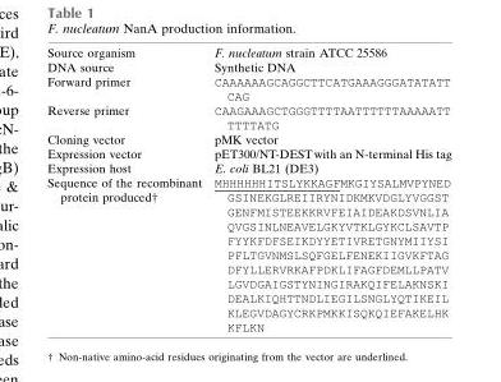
<table><tbody><tr><td>Source organism</td><td>F. nucleatum strain ATCC 25586</td></tr><tr><td>DNA source</td><td>Synthetic DNA</td></tr><tr><td>Forward primer</td><td>CAAAAAAGCAGGCTTCATGAAAGGGATATATT CAG</td></tr><tr><td>Reverse primer</td><td>CAAGAAAGCTGGGTTTTAATTTTTTAAAAATT TTTTATG</td></tr><tr><td>Cloning vector</td><td>pMK vector</td></tr><tr><td>Expression vector</td><td>pET300/NT-DESTwith an N-terminal His tag</td></tr><tr><td>Expression host</td><td>E. coli BL21 (DE3)</td></tr><tr><td>Sequence of the recombinant protein produced†</td><td>MHHHHHHITSLYKKAGFMKGIYSALMVPYNED GSINEKGLREIIRYNIDKMKVDGLYVGGST GENFMISTEEKKRVFEIAIDEAKDSVNLIA QVGSINLNEAVELGKYVTKLGYKCLSAVTP FYYKFDFSEIKDYYETIVRETGNYMIIYSI PFLTGVNMSLSQFGELFENEKIIGVKFTAG DFYLLERVRKAFPDKLIFAGFDEMLLPATV LGVDGAIGSTYNINGIRAKQIFELAKNSKI DEALKIQHTTNDLIEGILSNGLYQTIKEIL KLEGVDAGYCRKPMKKISQKQIEFAKELHK KFLKN</td></tr></tbody></table>